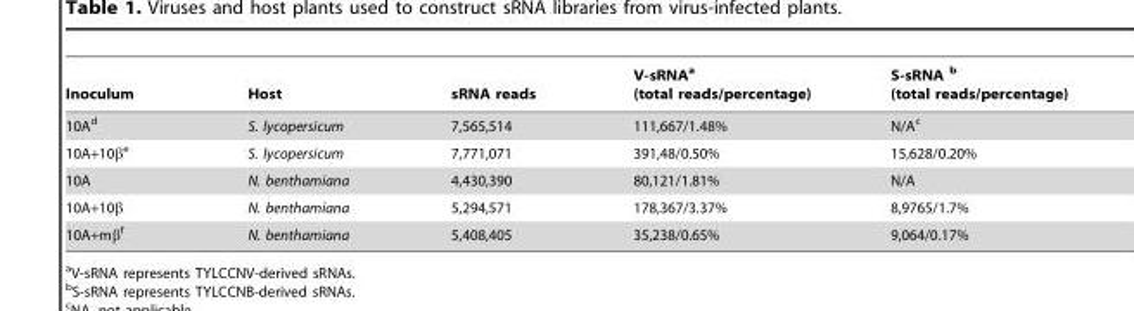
<table><thead><tr><td>Inoculum</td><td>Host</td><td>sRNA reads</td><td>V-sRNA<sup>a</sup> (total reads/percentage)</td><td>S-sRNA b (total reads/percentage)</td></tr></thead><tbody><tr><td>10A<sup>d</sup></td><td>S. lycopersicum</td><td>7,565,514</td><td>111,667/1.48%</td><td>N/A<sup>c</sup></td></tr><tr><td>10A+10β<sup>e</sup></td><td>S. lycopersicum</td><td>7,771,071</td><td>391,48/0.50%</td><td>15,628/0.20%</td></tr><tr><td>10A</td><td>N. benthamiana</td><td>4,430,390</td><td>80,121/1.81%</td><td>N/A</td></tr><tr><td>10A+10β</td><td>N. benthamiana</td><td>5,294,571</td><td>178,367/3.37%</td><td>8,9765/1.7%</td></tr><tr><td>10A+mβ<sup>f</sup></td><td>N. benthamiana</td><td>5,408,405</td><td>35,238/0.65%</td><td>9,064/0.17%</td></tr></tbody></table>